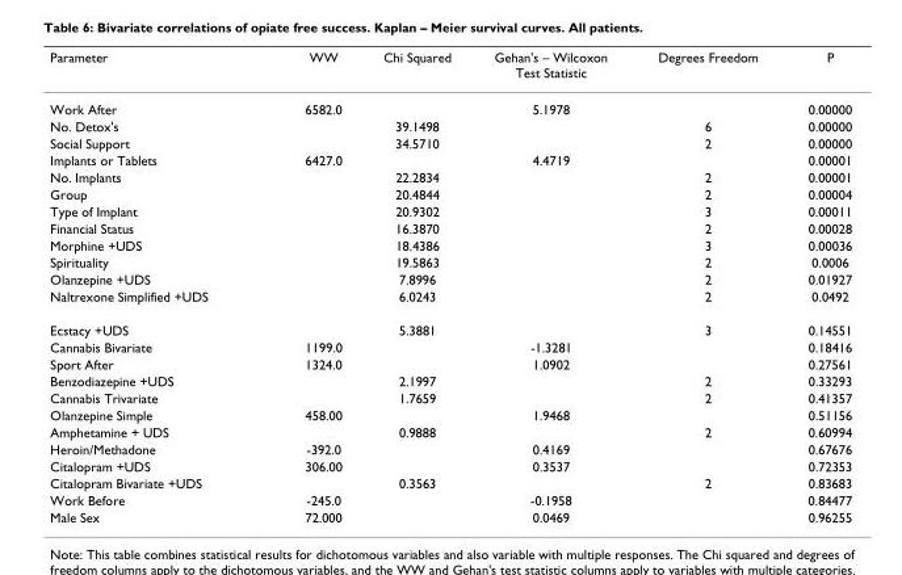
<table><thead><tr><td>Parameter</td><td>WW</td><td>Chi Squared</td><td>Gehan&#x27;s – Wilcoxon Test Statistic</td><td>Degrees Freedom</td><td>P</td></tr></thead><tbody><tr><td>Work After</td><td>6582.0</td><td></td><td>5.1978</td><td></td><td>0.00000</td></tr><tr><td>No. Detox&#x27;s</td><td></td><td>39.1498</td><td></td><td>6</td><td>0.00000</td></tr><tr><td>Social Support</td><td></td><td>34.5710</td><td></td><td>2</td><td>0.00000</td></tr><tr><td>Implants or Tablets</td><td>6427.0</td><td></td><td>4.4719</td><td></td><td>0.00001</td></tr><tr><td>No. Implants</td><td></td><td>22.2834</td><td></td><td>2</td><td>0.00001</td></tr><tr><td>Group</td><td></td><td>20.4844</td><td></td><td>2</td><td>0.00004</td></tr><tr><td>Type of Implant</td><td></td><td>20.9302</td><td></td><td>3</td><td>0.00011</td></tr><tr><td>Financial Status</td><td></td><td>16.3870</td><td></td><td>2</td><td>0.00028</td></tr><tr><td>Morphine +UDS</td><td></td><td>18.4386</td><td></td><td>3</td><td>0.00036</td></tr><tr><td>Spirituality</td><td></td><td>19.5863</td><td></td><td>2</td><td>0.0006</td></tr><tr><td>Olanzepine +UDS</td><td></td><td>7.8996</td><td></td><td>2</td><td>0.01927</td></tr><tr><td>Naltrexone Simplified +UDS</td><td></td><td>6.0243</td><td></td><td>2</td><td>0.0492</td></tr><tr><td>Ecstacy +UDS</td><td></td><td>5.3881</td><td></td><td>3</td><td>0.14551</td></tr><tr><td>Cannabis Bivariate</td><td>1199.0</td><td></td><td>-1.3281</td><td></td><td>0.18416</td></tr><tr><td>Sport After</td><td>1324.0</td><td></td><td>1.0902</td><td></td><td>0.27561</td></tr><tr><td>Benzodiazepine +UDS</td><td></td><td>2.1997</td><td></td><td>2</td><td>0.33293</td></tr><tr><td>Cannabis Trivariate</td><td></td><td>1.7659</td><td></td><td>2</td><td>0.41357</td></tr><tr><td>Olanzepine Simple</td><td>458.00</td><td></td><td>1.9468</td><td></td><td>0.51156</td></tr><tr><td>Amphetamine + UDS</td><td></td><td>0.9888</td><td></td><td>2</td><td>0.60994</td></tr><tr><td>Heroin/Methadone</td><td>-392.0</td><td></td><td>0.4169</td><td></td><td>0.67676</td></tr><tr><td>Citalopram +UDS</td><td>306.00</td><td></td><td>0.3537</td><td></td><td>0.72353</td></tr><tr><td>Citalopram Bivariate +UDS</td><td></td><td>0.3563</td><td></td><td>2</td><td>0.83683</td></tr><tr><td>Work Before</td><td>-245.0</td><td></td><td>-0.1958</td><td></td><td>0.84477</td></tr><tr><td>Male Sex</td><td>72.000</td><td></td><td>0.0469</td><td></td><td>0.96255</td></tr></tbody></table>